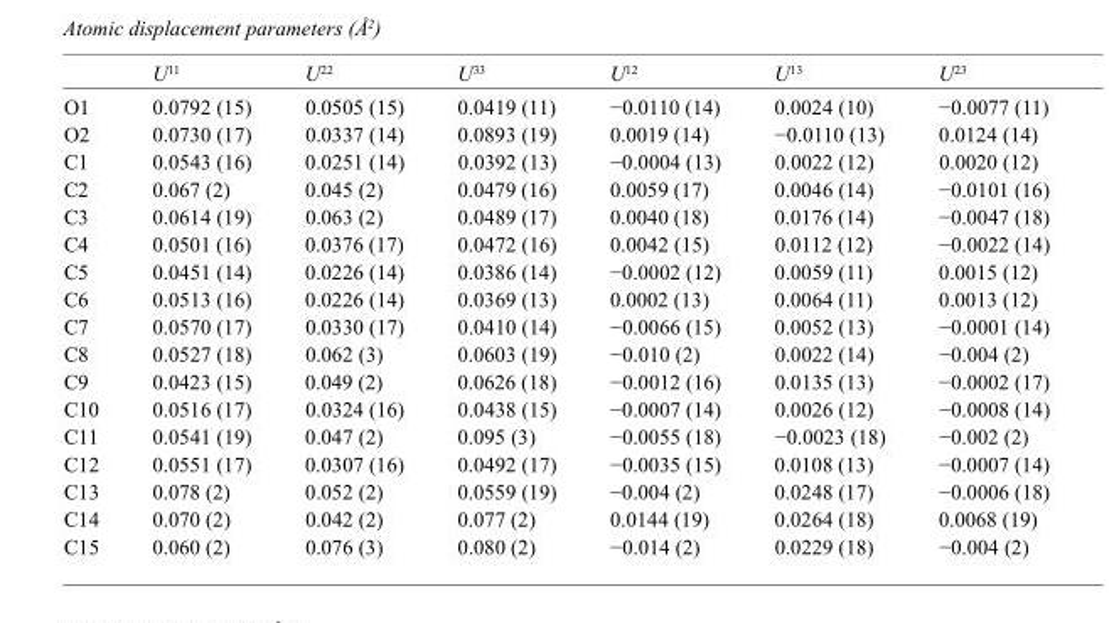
<table><thead><tr><td></td><td>U<sup>11</sup></td><td>U<sup>22</sup></td><td>U<sup>33</sup></td><td>U<sup>12</sup></td><td>U<sup>13</sup></td><td>U<sup>23</sup></td></tr></thead><tbody><tr><td>O1</td><td>0.0792 (15)</td><td>0.0505 (15)</td><td>0.0419 (11)</td><td>−0.0110 (14)</td><td>0.0024 (10)</td><td>−0.0077 (11)</td></tr><tr><td>O2</td><td>0.0730 (17)</td><td>0.0337 (14)</td><td>0.0893 (19)</td><td>0.0019 (14)</td><td>−0.0110 (13)</td><td>0.0124 (14)</td></tr><tr><td>C1</td><td>0.0543 (16)</td><td>0.0251 (14)</td><td>0.0392 (13)</td><td>−0.0004 (13)</td><td>0.0022 (12)</td><td>0.0020 (12)</td></tr><tr><td>C2</td><td>0.067 (2)</td><td>0.045 (2)</td><td>0.0479 (16)</td><td>0.0059 (17)</td><td>0.0046 (14)</td><td>−0.0101 (16)</td></tr><tr><td>C3</td><td>0.0614 (19)</td><td>0.063 (2)</td><td>0.0489 (17)</td><td>0.0040 (18)</td><td>0.0176 (14)</td><td>−0.0047 (18)</td></tr><tr><td>C4</td><td>0.0501 (16)</td><td>0.0376 (17)</td><td>0.0472 (16)</td><td>0.0042 (15)</td><td>0.0112 (12)</td><td>−0.0022 (14)</td></tr><tr><td>C5</td><td>0.0451 (14)</td><td>0.0226 (14)</td><td>0.0386 (14)</td><td>−0.0002 (12)</td><td>0.0059 (11)</td><td>0.0015 (12)</td></tr><tr><td>C6</td><td>0.0513 (16)</td><td>0.0226 (14)</td><td>0.0369 (13)</td><td>0.0002 (13)</td><td>0.0064 (11)</td><td>0.0013 (12)</td></tr><tr><td>C7</td><td>0.0570 (17)</td><td>0.0330 (17)</td><td>0.0410 (14)</td><td>−0.0066 (15)</td><td>0.0052 (13)</td><td>−0.0001 (14)</td></tr><tr><td>C8</td><td>0.0527 (18)</td><td>0.062 (3)</td><td>0.0603 (19)</td><td>−0.010 (2)</td><td>0.0022 (14)</td><td>−0.004 (2)</td></tr><tr><td>C9</td><td>0.0423 (15)</td><td>0.049 (2)</td><td>0.0626 (18)</td><td>−0.0012 (16)</td><td>0.0135 (13)</td><td>−0.0002 (17)</td></tr><tr><td>C10</td><td>0.0516 (17)</td><td>0.0324 (16)</td><td>0.0438 (15)</td><td>−0.0007 (14)</td><td>0.0026 (12)</td><td>−0.0008 (14)</td></tr><tr><td>C11</td><td>0.0541 (19)</td><td>0.047 (2)</td><td>0.095 (3)</td><td>−0.0055 (18)</td><td>−0.0023 (18)</td><td>−0.002 (2)</td></tr><tr><td>C12</td><td>0.0551 (17)</td><td>0.0307 (16)</td><td>0.0492 (17)</td><td>−0.0035 (15)</td><td>0.0108 (13)</td><td>−0.0007 (14)</td></tr><tr><td>C13</td><td>0.078 (2)</td><td>0.052 (2)</td><td>0.0559 (19)</td><td>−0.004 (2)</td><td>0.0248 (17)</td><td>−0.0006 (18)</td></tr><tr><td>C14</td><td>0.070 (2)</td><td>0.042 (2)</td><td>0.077 (2)</td><td>0.0144 (19)</td><td>0.0264 (18)</td><td>0.0068 (19)</td></tr><tr><td>C15</td><td>0.060 (2)</td><td>0.076 (3)</td><td>0.080 (2)</td><td>−0.014 (2)</td><td>0.0229 (18)</td><td>−0.004 (2)</td></tr></tbody></table>